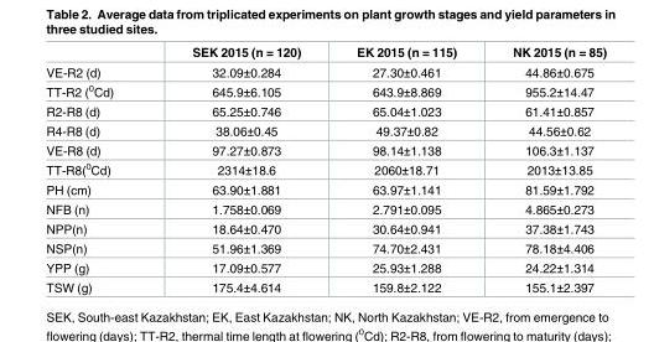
<table><thead><tr><td></td><td>SEK 2015 (n = 120)</td><td>EK 2015 (n = 115)</td><td>NK 2015 (n = 85)</td></tr></thead><tbody><tr><td>VE-R2 (d)</td><td>32.09±0.284</td><td>27.30±0.461</td><td>44.86±0.675</td></tr><tr><td>TT-R2 (<sup>0</sup>Cd)</td><td>645.9±6.105</td><td>643.9±8.869</td><td>955.2±14.47</td></tr><tr><td>R2-R8 (d)</td><td>65.25±0.746</td><td>65.04±1.023</td><td>61.41±0.857</td></tr><tr><td>R4-R8 (d)</td><td>38.06±0.45</td><td>49.37±0.82</td><td>44.56±0.62</td></tr><tr><td>VE-R8 (d)</td><td>97.27±0.873</td><td>98.14±1.138</td><td>106.3±1.137</td></tr><tr><td>TT-R8(<sup>0</sup>Cd)</td><td>2314±18.6</td><td>2060±18.71</td><td>2013±13.85</td></tr><tr><td>PH (cm)</td><td>63.90±1.881</td><td>63.97±1.141</td><td>81.59±1.792</td></tr><tr><td>NFB (n)</td><td>1.758±0.069</td><td>2.791±0.095</td><td>4.865±0.273</td></tr><tr><td>NPP(n)</td><td>18.64±0.470</td><td>30.64±0.941</td><td>37.38±1.743</td></tr><tr><td>NSP(n)</td><td>51.96±1.369</td><td>74.70±2.431</td><td>78.18±4.406</td></tr><tr><td>YPP (g)</td><td>17.09±0.577</td><td>25.93±1.288</td><td>24.22±1.314</td></tr><tr><td>TSW (g)</td><td>175.4±4.614</td><td>159.8±2.122</td><td>155.1±2.397</td></tr></tbody></table>